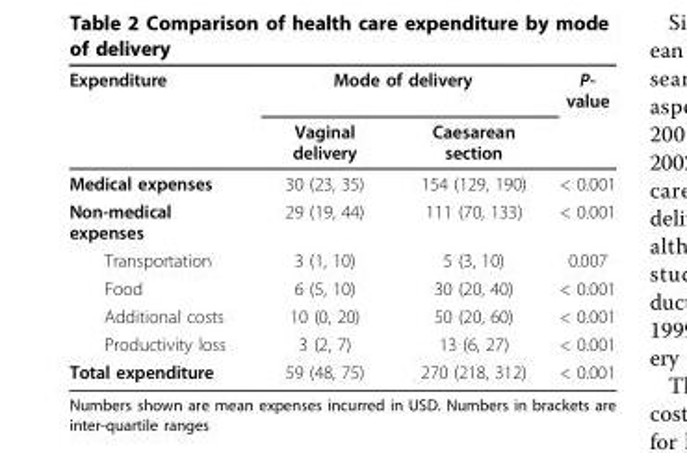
<table><thead><tr><td rowspan="2">Expenditure</td><td colspan="2">Mode of delivery</td><td rowspan="2">P- value</td></tr><tr><td>Vaginal delivery</td><td>Caesarean section</td></tr></thead><tbody><tr><td>Medical expenses</td><td>30 (23, 35)</td><td>154 (129, 190)</td><td>&lt; 0.001</td></tr><tr><td>Non-medical expenses</td><td>29 (19, 44)</td><td>111 (70, 133)</td><td>&lt; 0.001</td></tr><tr><td>Transportation</td><td>3 (1, 10)</td><td>5 (3, 10)</td><td>0.007</td></tr><tr><td>Food</td><td>6 (5, 10)</td><td>30 (20, 40)</td><td>&lt; 0.001</td></tr><tr><td>Additional costs</td><td>10 (0, 20)</td><td>50 (20, 60)</td><td>&lt; 0.001</td></tr><tr><td>Productivity loss</td><td>3 (2, 7)</td><td>13 (6, 27)</td><td>&lt; 0.001</td></tr><tr><td>Total expenditure</td><td>59 (48, 75)</td><td>270 (218, 312)</td><td>&lt; 0.001</td></tr></tbody></table>